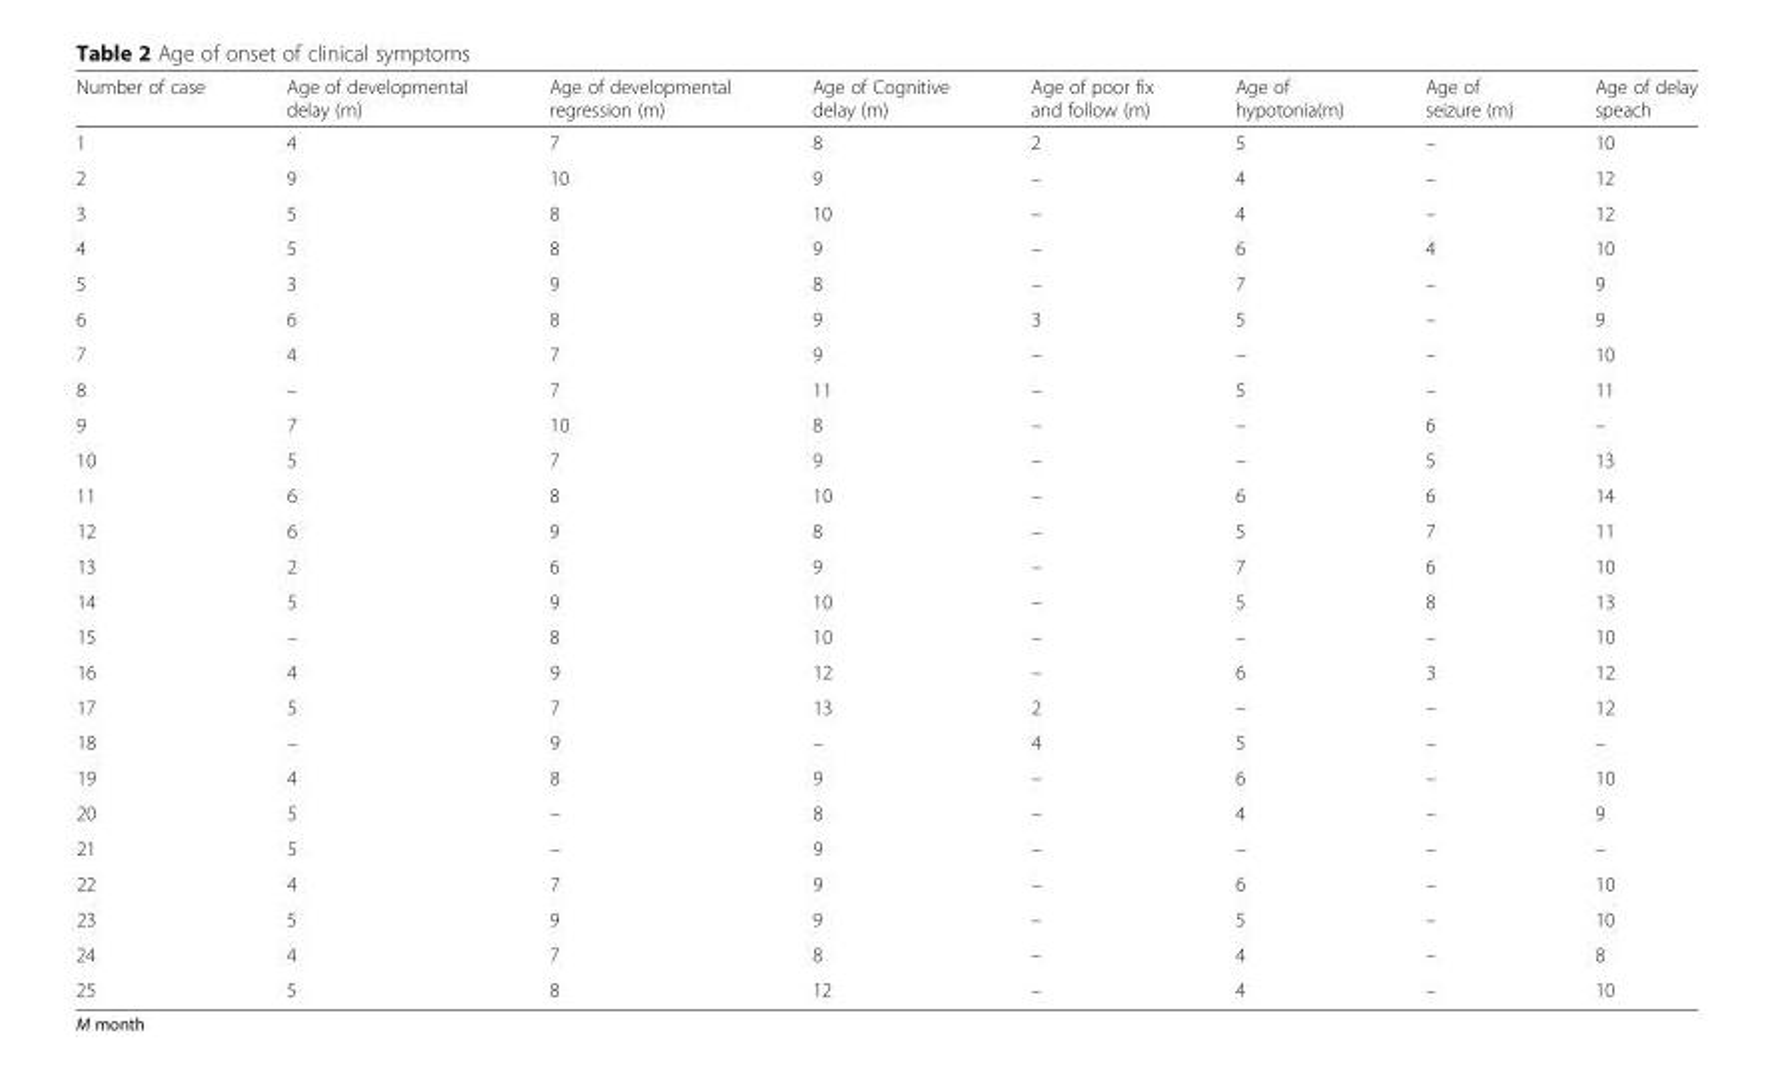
<table><thead><tr><td>Number of case</td><td>Age of developmental delay (m)</td><td>Age of developmental regression (m)</td><td>Age of Cognitive delay (m)</td><td>Age of poor fix and follow (m)</td><td>Age of hypotonia(m)</td><td>Age of seizure (m)</td><td>Age of delay speach</td></tr></thead><tbody><tr><td>1</td><td>4</td><td>7</td><td>8</td><td>2</td><td>5</td><td>–</td><td>10</td></tr><tr><td>2</td><td>9</td><td>10</td><td>9</td><td>–</td><td>4</td><td>–</td><td>12</td></tr><tr><td>3</td><td>5</td><td>8</td><td>10</td><td>–</td><td>4</td><td>–</td><td>12</td></tr><tr><td>4</td><td>5</td><td>8</td><td>9</td><td>–</td><td>6</td><td>4</td><td>10</td></tr><tr><td>5</td><td>3</td><td>9</td><td>8</td><td>–</td><td>7</td><td>–</td><td>9</td></tr><tr><td>6</td><td>6</td><td>8</td><td>9</td><td>3</td><td>5</td><td>–</td><td>9</td></tr><tr><td>7</td><td>4</td><td>7</td><td>9</td><td>–</td><td>–</td><td>–</td><td>10</td></tr><tr><td>8</td><td>–</td><td>7</td><td>11</td><td>–</td><td>5</td><td>–</td><td>11</td></tr><tr><td>9</td><td>7</td><td>10</td><td>8</td><td>–</td><td>–</td><td>6</td><td>–</td></tr><tr><td>10</td><td>5</td><td>7</td><td>9</td><td>–</td><td>–</td><td>5</td><td>13</td></tr><tr><td>11</td><td>6</td><td>8</td><td>10</td><td>–</td><td>6</td><td>6</td><td>14</td></tr><tr><td>12</td><td>6</td><td>9</td><td>8</td><td>–</td><td>5</td><td>7</td><td>11</td></tr><tr><td>13</td><td>2</td><td>6</td><td>9</td><td>–</td><td>7</td><td>6</td><td>10</td></tr><tr><td>14</td><td>5</td><td>9</td><td>10</td><td>–</td><td>5</td><td>8</td><td>13</td></tr><tr><td>15</td><td>–</td><td>8</td><td>10</td><td>–</td><td>–</td><td>–</td><td>10</td></tr><tr><td>16</td><td>4</td><td>9</td><td>12</td><td>–</td><td>6</td><td>3</td><td>12</td></tr><tr><td>17</td><td>5</td><td>7</td><td>13</td><td>2</td><td>–</td><td>–</td><td>12</td></tr><tr><td>18</td><td>–</td><td>9</td><td>–</td><td>4</td><td>5</td><td>–</td><td>–</td></tr><tr><td>19</td><td>4</td><td>8</td><td>9</td><td>–</td><td>6</td><td>–</td><td>10</td></tr><tr><td>20</td><td>5</td><td>–</td><td>8</td><td>–</td><td>4</td><td>–</td><td>9</td></tr><tr><td>21</td><td>5</td><td>–</td><td>9</td><td>–</td><td>–</td><td>–</td><td>–</td></tr><tr><td>22</td><td>4</td><td>7</td><td>9</td><td>–</td><td>6</td><td>–</td><td>10</td></tr><tr><td>23</td><td>5</td><td>9</td><td>9</td><td>–</td><td>5</td><td>–</td><td>10</td></tr><tr><td>24</td><td>4</td><td>7</td><td>8</td><td>–</td><td>4</td><td>–</td><td>8</td></tr><tr><td>25</td><td>5</td><td>8</td><td>12</td><td>–</td><td>4</td><td>–</td><td>10</td></tr></tbody></table>